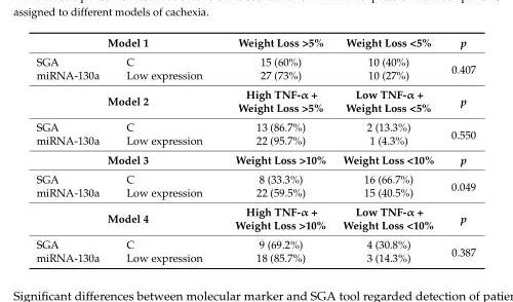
<table><tbody><tr><td colspan="2">Model 1</td><td>Weight Loss &gt;5%</td><td>Weight Loss &lt;5%</td><td>p</td></tr><tr><td>SGA</td><td>C</td><td>15 (60%)</td><td>10 (40%)</td><td rowspan="2">0.407</td></tr><tr><td>miRNA-130a</td><td>Low expression</td><td>27 (73%)</td><td>10 (27%)</td></tr><tr><td colspan="2">Model 2</td><td>High TNF-α + Weight Loss &gt;5%</td><td>Low TNF-α + Weight Loss &lt;5%</td><td>p</td></tr><tr><td>SGA</td><td>C</td><td>13 (86.7%)</td><td>2 (13.3%)</td><td rowspan="2">0.550</td></tr><tr><td>miRNA-130a</td><td>Low expression</td><td>22 (95.7%)</td><td>1 (4.3%)</td></tr><tr><td colspan="2">Model 3</td><td>Weight Loss &gt;10%</td><td>Weight Loss &lt;10%</td><td>p</td></tr><tr><td>SGA</td><td>C</td><td>8 (33.3%)</td><td>16 (66.7%)</td><td rowspan="2">0.049</td></tr><tr><td>miRNA-130a</td><td>Low expression</td><td>22 (59.5%)</td><td>15 (40.5%)</td></tr><tr><td colspan="2">Model 4</td><td>High TNF-α + Weight Loss &gt;10%</td><td>Low TNF-α + Weight Loss &lt;10%</td><td>p</td></tr><tr><td>SGA</td><td>C</td><td>9 (69.2%)</td><td>4 (30.8%)</td><td rowspan="2">0.387</td></tr><tr><td>miRNA-130a</td><td>Low expression</td><td>18 (85.7%)</td><td>3 (14.3%)</td></tr></tbody></table>